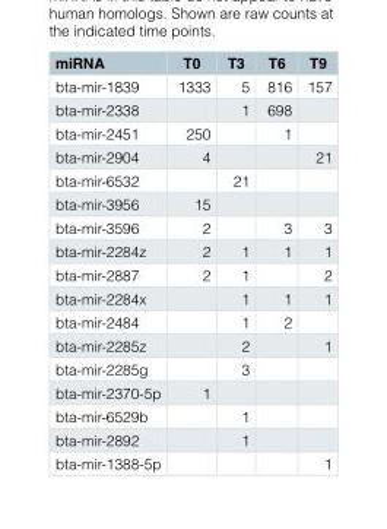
<table><thead><tr><td>miRNA</td><td>T0</td><td>T3</td><td>T6</td><td>T9</td></tr></thead><tbody><tr><td>bta-mir-1839</td><td>1333</td><td>5</td><td>816</td><td>157</td></tr><tr><td>bta-mir-2338</td><td></td><td>1</td><td>698</td><td></td></tr><tr><td>bta-mir-2451</td><td>250</td><td></td><td>1</td><td></td></tr><tr><td>bta-mir-2904</td><td>4</td><td></td><td></td><td>21</td></tr><tr><td>bta-mir-6532</td><td></td><td>21</td><td></td><td></td></tr><tr><td>bta-mir-3956</td><td>15</td><td></td><td></td><td></td></tr><tr><td>bta-mir-3596</td><td>2</td><td></td><td>3</td><td>3</td></tr><tr><td>bta-mir-2284z</td><td>2</td><td>1</td><td>1</td><td>1</td></tr><tr><td>bta-mir-2887</td><td>2</td><td>1</td><td></td><td>2</td></tr><tr><td>bta-mir-2284x</td><td></td><td>1</td><td>1</td><td>1</td></tr><tr><td>bta-mir-2484</td><td></td><td>1</td><td>2</td><td></td></tr><tr><td>bta-mir-2285z</td><td></td><td>2</td><td></td><td>1</td></tr><tr><td>bta-mir-2285g</td><td></td><td>3</td><td></td><td></td></tr><tr><td>bta-mir-2370-5p</td><td>1</td><td></td><td></td><td></td></tr><tr><td>bta-mir-6529b</td><td></td><td>1</td><td></td><td></td></tr><tr><td>bta-mir-2892</td><td></td><td>1</td><td></td><td></td></tr><tr><td>bta-mir-1388-5p</td><td></td><td></td><td></td><td>1</td></tr></tbody></table>